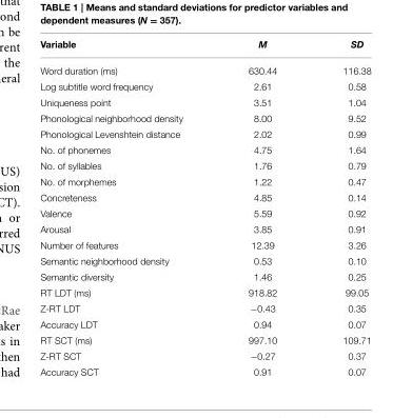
<table><thead><tr><td>Variable</td><td>M</td><td>SD</td></tr></thead><tbody><tr><td>Word duration (ms)</td><td>630.44</td><td>116.38</td></tr><tr><td>Log subtitle word frequency</td><td>2.61</td><td>0.58</td></tr><tr><td>Uniqueness point</td><td>3.51</td><td>1.04</td></tr><tr><td>Phonological neighborhood density</td><td>8.00</td><td>9.52</td></tr><tr><td>Phonological Levenshtein distance</td><td>2.02</td><td>0.99</td></tr><tr><td>No. of phonemes</td><td>4.75</td><td>1.64</td></tr><tr><td>No. of syllables</td><td>1.76</td><td>0.79</td></tr><tr><td>No. of morphemes</td><td>1.22</td><td>0.47</td></tr><tr><td>Concreteness</td><td>4.85</td><td>0.14</td></tr><tr><td>Valence</td><td>5.59</td><td>0.92</td></tr><tr><td>Arousal</td><td>3.85</td><td>0.91</td></tr><tr><td>Number of features</td><td>12.39</td><td>3.26</td></tr><tr><td>Semantic neighborhood density</td><td>0.53</td><td>0.10</td></tr><tr><td>Semantic diversity</td><td>1.46</td><td>0.25</td></tr><tr><td>RT LDT (ms)</td><td>918.82</td><td>99.05</td></tr><tr><td>Z-RT LDT</td><td>−0.43</td><td>0.35</td></tr><tr><td>Accuracy LDT</td><td>0.94</td><td>0.07</td></tr><tr><td>RT SCT (ms)</td><td>997.10</td><td>109.71</td></tr><tr><td>Z-RT SCT</td><td>−0.27</td><td>0.37</td></tr><tr><td>Accuracy SCT</td><td>0.91</td><td>0.07</td></tr></tbody></table>